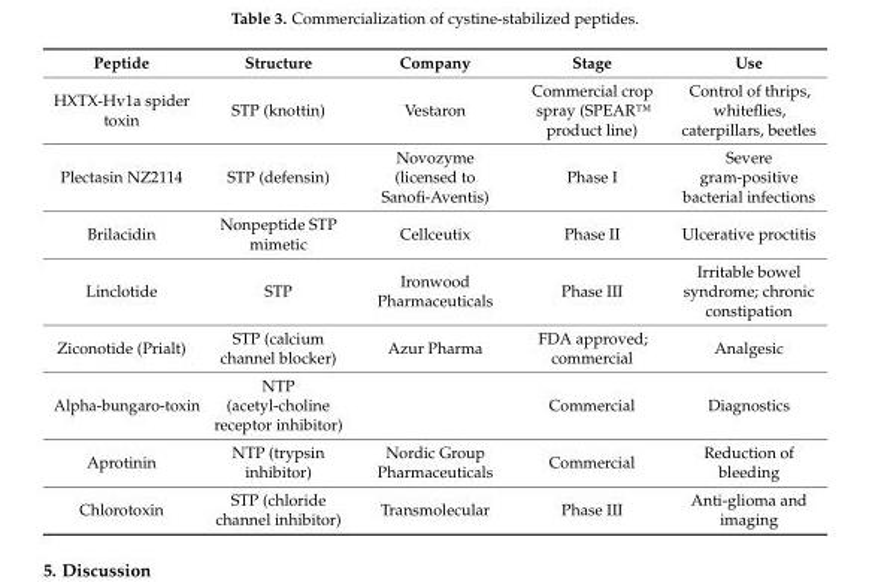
<table><thead><tr><td>Peptide</td><td>Structure</td><td>Company</td><td>Stage</td><td>Use</td></tr></thead><tbody><tr><td>HXTX-Hv1a spider toxin</td><td>STP (knottin)</td><td>Vestaron</td><td>Commercial crop spray (SPEAR™ product line)</td><td>Control of thrips, whiteflies, caterpillars, beetles</td></tr><tr><td>Plectasin NZ2114</td><td>STP (defensin)</td><td>Novozyme (licensed to Sanofi-Aventis)</td><td>Phase I</td><td>Severe gram-positive bacterial infections</td></tr><tr><td>Brilacidin</td><td>Nonpeptide STP mimetic</td><td>Cellceutix</td><td>Phase II</td><td>Ulcerative proctitis</td></tr><tr><td>Linclotide</td><td>STP</td><td>Ironwood Pharmaceuticals</td><td>Phase III</td><td>Irritable bowel syndrome; chronic constipation</td></tr><tr><td>Ziconotide (Prialt)</td><td>STP (calcium channel blocker)</td><td>Azur Pharma</td><td>FDA approved; commercial</td><td>Analgesic</td></tr><tr><td>Alpha-bungaro-toxin</td><td>NTP (acetyl-choline receptor inhibitor)</td><td></td><td>Commercial</td><td>Diagnostics</td></tr><tr><td>Aprotinin</td><td>NTP (trypsin inhibitor)</td><td>Nordic Group Pharmaceuticals</td><td>Commercial</td><td>Reduction of bleeding</td></tr><tr><td>Chlorotoxin</td><td>STP (chloride channel inhibitor)</td><td>Transmolecular</td><td>Phase III</td><td>Anti-glioma and imaging</td></tr></tbody></table>